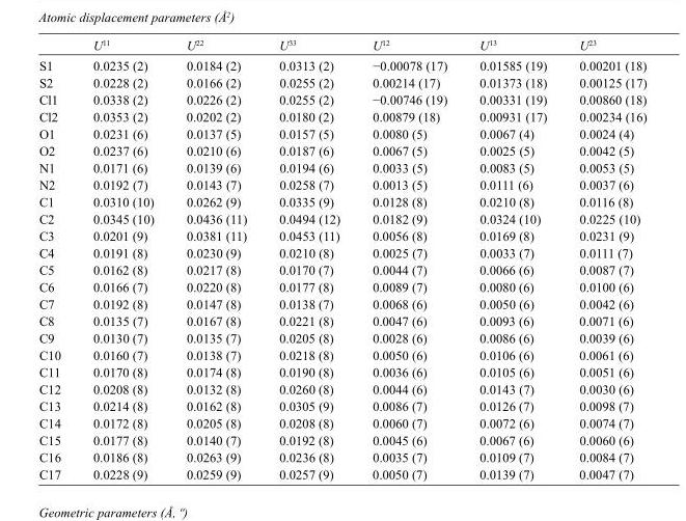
<table><thead><tr><td></td><td>U<sup>11</sup></td><td>U<sup>22</sup></td><td>U<sup>33</sup></td><td>U<sup>12</sup></td><td>U<sup>13</sup></td><td>U<sup>23</sup></td></tr></thead><tbody><tr><td>S1</td><td>0.0235 (2)</td><td>0.0184 (2)</td><td>0.0313 (2)</td><td>−0.00078 (17)</td><td>0.01585 (19)</td><td>0.00201 (18)</td></tr><tr><td>S2</td><td>0.0228 (2)</td><td>0.0166 (2)</td><td>0.0255 (2)</td><td>0.00214 (17)</td><td>0.01373 (18)</td><td>0.00125 (17)</td></tr><tr><td>Cl1</td><td>0.0338 (2)</td><td>0.0226 (2)</td><td>0.0255 (2)</td><td>−0.00746 (19)</td><td>0.00331 (19)</td><td>0.00860 (18)</td></tr><tr><td>Cl2</td><td>0.0353 (2)</td><td>0.0202 (2)</td><td>0.0180 (2)</td><td>0.00879 (18)</td><td>0.00931 (17)</td><td>0.00234 (16)</td></tr><tr><td>O1</td><td>0.0231 (6)</td><td>0.0137 (5)</td><td>0.0157 (5)</td><td>0.0080 (5)</td><td>0.0067 (4)</td><td>0.0024 (4)</td></tr><tr><td>O2</td><td>0.0237 (6)</td><td>0.0210 (6)</td><td>0.0187 (6)</td><td>0.0067 (5)</td><td>0.0025 (5)</td><td>0.0042 (5)</td></tr><tr><td>N1</td><td>0.0171 (6)</td><td>0.0139 (6)</td><td>0.0194 (6)</td><td>0.0033 (5)</td><td>0.0083 (5)</td><td>0.0053 (5)</td></tr><tr><td>N2</td><td>0.0192 (7)</td><td>0.0143 (7)</td><td>0.0258 (7)</td><td>0.0013 (5)</td><td>0.0111 (6)</td><td>0.0037 (6)</td></tr><tr><td>C1</td><td>0.0310 (10)</td><td>0.0262 (9)</td><td>0.0335 (9)</td><td>0.0128 (8)</td><td>0.0210 (8)</td><td>0.0116 (8)</td></tr><tr><td>C2</td><td>0.0345 (10)</td><td>0.0436 (11)</td><td>0.0494 (12)</td><td>0.0182 (9)</td><td>0.0324 (10)</td><td>0.0225 (10)</td></tr><tr><td>C3</td><td>0.0201 (9)</td><td>0.0381 (11)</td><td>0.0453 (11)</td><td>0.0056 (8)</td><td>0.0169 (8)</td><td>0.0231 (9)</td></tr><tr><td>C4</td><td>0.0191 (8)</td><td>0.0230 (9)</td><td>0.0210 (8)</td><td>0.0025 (7)</td><td>0.0033 (7)</td><td>0.0111 (7)</td></tr><tr><td>C5</td><td>0.0162 (8)</td><td>0.0217 (8)</td><td>0.0170 (7)</td><td>0.0044 (7)</td><td>0.0066 (6)</td><td>0.0087 (7)</td></tr><tr><td>C6</td><td>0.0166 (7)</td><td>0.0220 (8)</td><td>0.0177 (8)</td><td>0.0089 (7)</td><td>0.0080 (6)</td><td>0.0100 (6)</td></tr><tr><td>C7</td><td>0.0192 (8)</td><td>0.0147 (8)</td><td>0.0138 (7)</td><td>0.0068 (6)</td><td>0.0050 (6)</td><td>0.0042 (6)</td></tr><tr><td>C8</td><td>0.0135 (7)</td><td>0.0167 (8)</td><td>0.0221 (8)</td><td>0.0047 (6)</td><td>0.0093 (6)</td><td>0.0071 (6)</td></tr><tr><td>C9</td><td>0.0130 (7)</td><td>0.0135 (7)</td><td>0.0205 (8)</td><td>0.0028 (6)</td><td>0.0086 (6)</td><td>0.0039 (6)</td></tr><tr><td>C10</td><td>0.0160 (7)</td><td>0.0138 (7)</td><td>0.0218 (8)</td><td>0.0050 (6)</td><td>0.0106 (6)</td><td>0.0061 (6)</td></tr><tr><td>C11</td><td>0.0170 (8)</td><td>0.0174 (8)</td><td>0.0190 (8)</td><td>0.0036 (6)</td><td>0.0105 (6)</td><td>0.0051 (6)</td></tr><tr><td>C12</td><td>0.0208 (8)</td><td>0.0132 (8)</td><td>0.0260 (8)</td><td>0.0044 (6)</td><td>0.0143 (7)</td><td>0.0030 (6)</td></tr><tr><td>C13</td><td>0.0214 (8)</td><td>0.0162 (8)</td><td>0.0305 (9)</td><td>0.0086 (7)</td><td>0.0126 (7)</td><td>0.0098 (7)</td></tr><tr><td>C14</td><td>0.0172 (8)</td><td>0.0205 (8)</td><td>0.0208 (8)</td><td>0.0060 (7)</td><td>0.0072 (6)</td><td>0.0074 (7)</td></tr><tr><td>C15</td><td>0.0177 (8)</td><td>0.0140 (7)</td><td>0.0192 (8)</td><td>0.0045 (6)</td><td>0.0067 (6)</td><td>0.0060 (6)</td></tr><tr><td>C16</td><td>0.0186 (8)</td><td>0.0263 (9)</td><td>0.0236 (8)</td><td>0.0035 (7)</td><td>0.0109 (7)</td><td>0.0084 (7)</td></tr><tr><td>C17</td><td>0.0228 (9)</td><td>0.0259 (9)</td><td>0.0257 (9)</td><td>0.0050 (7)</td><td>0.0139 (7)</td><td>0.0047 (7)</td></tr></tbody></table>